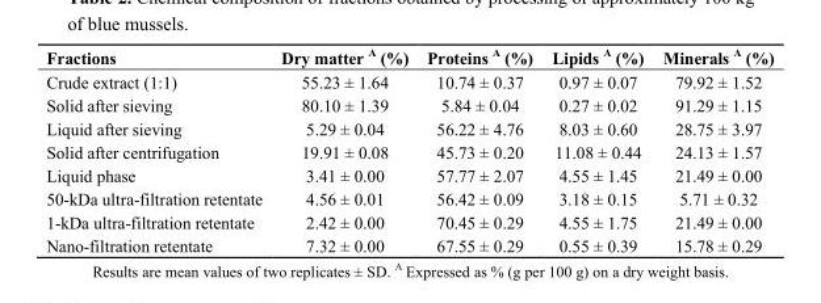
<table><thead><tr><td>Fractions</td><td>Dry matter <sup>A</sup> (%)</td><td>Proteins <sup>A</sup> (%)</td><td>Lipids <sup>A</sup> (%)</td><td>Minerals <sup>A</sup> (%)</td></tr></thead><tbody><tr><td>Crude extract (1:1)</td><td>55.23 ± 1.64</td><td>10.74 ± 0.37</td><td>0.97 ± 0.07</td><td>79.92 ± 1.52</td></tr><tr><td>Solid after sieving</td><td>80.10 ± 1.39</td><td>5.84 ± 0.04</td><td>0.27 ± 0.02</td><td>91.29 ± 1.15</td></tr><tr><td>Liquid after sieving</td><td>5.29 ± 0.04</td><td>56.22 ± 4.76</td><td>8.03 ± 0.60</td><td>28.75 ± 3.97</td></tr><tr><td>Solid after centrifugation</td><td>19.91 ± 0.08</td><td>45.73 ± 0.20</td><td>11.08 ± 0.44</td><td>24.13 ± 1.57</td></tr><tr><td>Liquid phase</td><td>3.41 ± 0.00</td><td>57.77 ± 2.07</td><td>4.55 ± 1.45</td><td>21.49 ± 0.00</td></tr><tr><td>50-kDa ultra-filtration retentate</td><td>4.56 ± 0.01</td><td>56.42 ± 0.09</td><td>3.18 ± 0.15</td><td>5.71 ± 0.32</td></tr><tr><td>1-kDa ultra-filtration retentate</td><td>2.42 ± 0.00</td><td>70.45 ± 0.29</td><td>4.55 ± 1.75</td><td>21.49 ± 0.00</td></tr><tr><td>Nano-filtration retentate</td><td>7.32 ± 0.00</td><td>67.55 ± 0.29</td><td>0.55 ± 0.39</td><td>15.78 ± 0.29</td></tr></tbody></table>